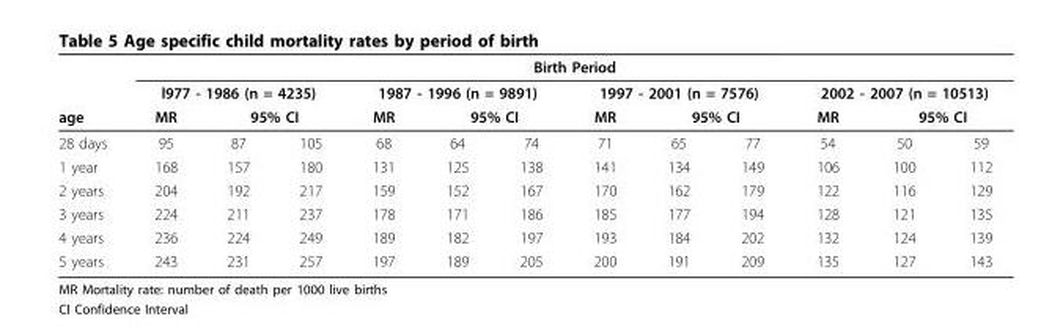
<table><thead><tr><td rowspan="4">age 28 days</td><td colspan="12">Birth Period</td></tr><tr><td colspan="3">l977 - 1986 (n = 4235)</td><td colspan="3">1987 - 1996 (n = 9891)</td><td colspan="3">1997 - 2001 (n = 7576)</td><td colspan="3">2002 - 2007 (n = 10513)</td></tr><tr><td rowspan="2">MR 95</td><td colspan="2">95% CI</td><td rowspan="2">MR 68</td><td colspan="2">95% CI</td><td rowspan="2">MR 71</td><td colspan="2">95% CI</td><td rowspan="2">MR 54</td><td colspan="2">95% CI</td></tr><tr><td>87</td><td>105</td><td>64</td><td>74</td><td>65</td><td>77</td><td>50</td><td>59</td></tr></thead><tbody><tr><td>1 year</td><td>168</td><td>157</td><td>180</td><td>131</td><td>125</td><td>138</td><td>141</td><td>134</td><td>149</td><td>106</td><td>100</td><td>112</td></tr><tr><td>2 years</td><td>204</td><td>192</td><td>217</td><td>159</td><td>152</td><td>167</td><td>170</td><td>162</td><td>179</td><td>122</td><td>116</td><td>129</td></tr><tr><td>3 years</td><td>224</td><td>211</td><td>237</td><td>178</td><td>171</td><td>186</td><td>185</td><td>177</td><td>194</td><td>128</td><td>121</td><td>135</td></tr><tr><td>4 years</td><td>236</td><td>224</td><td>249</td><td>189</td><td>182</td><td>197</td><td>193</td><td>184</td><td>202</td><td>132</td><td>124</td><td>139</td></tr><tr><td>5 years</td><td>243</td><td>231</td><td>257</td><td>197</td><td>189</td><td>205</td><td>200</td><td>191</td><td>209</td><td>135</td><td>127</td><td>143</td></tr></tbody></table>